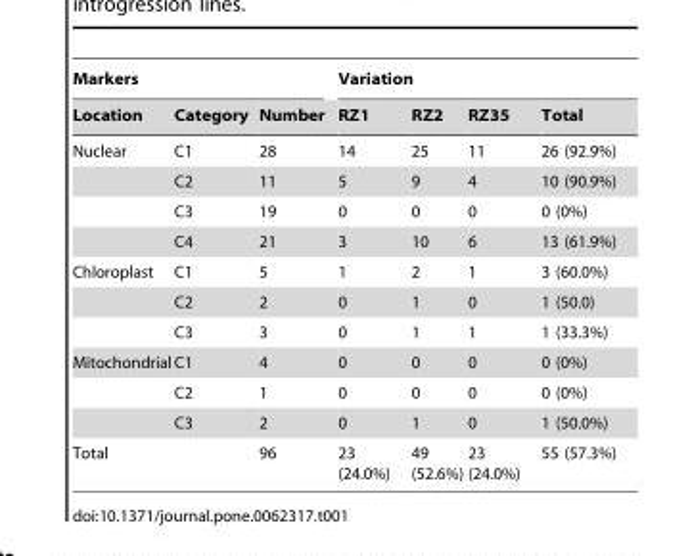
<table><thead><tr><td colspan="3">Markers</td><td colspan="4">Variation</td></tr><tr><td>Location</td><td>Category</td><td>Number</td><td>RZ1</td><td>RZ2</td><td>RZ35</td><td>Total</td></tr></thead><tbody><tr><td rowspan="4">Nuclear</td><td>C1</td><td>28</td><td>14</td><td>25</td><td>11</td><td>26 (92.9%)</td></tr><tr><td>C2</td><td>11</td><td>5</td><td>9</td><td>4</td><td>10 (90.9%)</td></tr><tr><td>C3</td><td>19</td><td>0</td><td>0</td><td>0</td><td>0 (0%)</td></tr><tr><td>C4</td><td>21</td><td>3</td><td>10</td><td>6</td><td>13 (61.9%)</td></tr><tr><td rowspan="3">Chloroplast</td><td>C1</td><td>5</td><td>1</td><td>2</td><td>1</td><td>3 (60.0%)</td></tr><tr><td>C2</td><td>2</td><td>0</td><td>1</td><td>0</td><td>1 (50.0)</td></tr><tr><td>C3</td><td>3</td><td>0</td><td>1</td><td>1</td><td>1 (33.3%)</td></tr><tr><td rowspan="3">Mitochondrial</td><td>C1</td><td>4</td><td>0</td><td>0</td><td>0</td><td>0 (0%)</td></tr><tr><td>C2</td><td>1</td><td>0</td><td>0</td><td>0</td><td>0 (0%)</td></tr><tr><td>C3</td><td>2</td><td>0</td><td>1</td><td>0</td><td>1 (50.0%)</td></tr><tr><td>Total</td><td></td><td>96</td><td>23 (24.0%)</td><td>49 (52.6%)</td><td>23 (24.0%)</td><td>55 (57.3%)</td></tr></tbody></table>